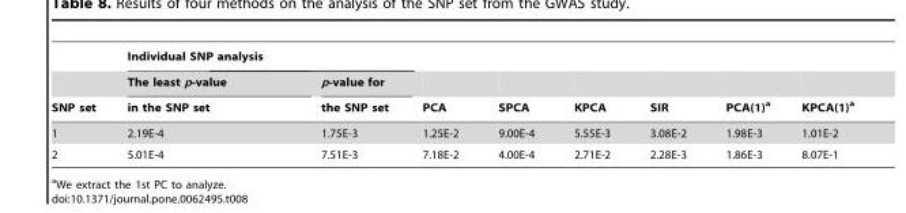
<table><thead><tr><td rowspan="3">SNP set</td><td rowspan="3">Individual SNP analysis The least p-value in the SNP set</td><td rowspan="3">p-value for the SNP set</td><td rowspan="3">PCA</td><td rowspan="3">SPCA</td><td rowspan="3">KPCA</td><td rowspan="3">SIR</td><td rowspan="3">PCA(1)<sup>a</sup></td><td rowspan="3">KPCA(1)<sup>a</sup></td></tr><tr></tr><tr></tr></thead><tbody><tr><td>1</td><td>2.19E-4</td><td>1.75E-3</td><td>1.25E-2</td><td>9.00E-4</td><td>5.55E-3</td><td>3.08E-2</td><td>1.98E-3</td><td>1.01E-2</td></tr><tr><td>2</td><td>5.01E-4</td><td>7.51E-3</td><td>7.18E-2</td><td>4.00E-4</td><td>2.71E-2</td><td>2.28E-3</td><td>1.86E-3</td><td>8.07E-1</td></tr></tbody></table>